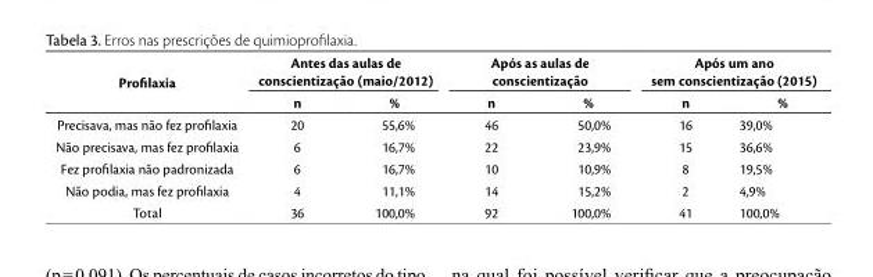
<table><thead><tr><td rowspan="2">Profilaxia</td><td colspan="2">Antes das aulas de conscientização (maio/2012)</td><td colspan="2">Após as aulas de conscientização</td><td colspan="2">Após um ano sem conscientização (2015)</td></tr><tr><td>n</td><td>%</td><td>n</td><td>%</td><td>n</td><td>%</td></tr></thead><tbody><tr><td>Precisava, mas não fez profilaxia</td><td>20</td><td>55,6%</td><td>46</td><td>50,0%</td><td>16</td><td>39,0%</td></tr><tr><td>Não precisava, mas fez profilaxia</td><td>6</td><td>16,7%</td><td>22</td><td>23,9%</td><td>15</td><td>36,6%</td></tr><tr><td>Fez profilaxia não padronizada</td><td>6</td><td>16,7%</td><td>10</td><td>10,9%</td><td>8</td><td>19,5%</td></tr><tr><td>Não podia, mas fez profilaxia</td><td>4</td><td>11,1%</td><td>14</td><td>15,2%</td><td>2</td><td>4,9%</td></tr><tr><td>Total</td><td>36</td><td>100,0%</td><td>92</td><td>100,0%</td><td>41</td><td>100,0%</td></tr></tbody></table>